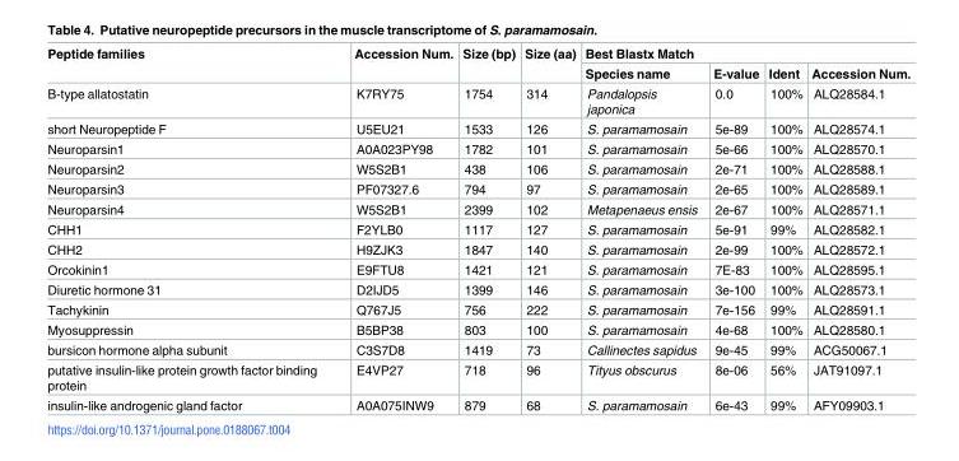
<table><thead><tr><td rowspan="2">Peptide families</td><td rowspan="2">Accession Num.</td><td rowspan="2">Size (bp)</td><td rowspan="2">Size (aa)</td><td colspan="4">Best Blastx Match</td></tr><tr><td>Species name</td><td>E-value</td><td>Ident</td><td>Accession Num.</td></tr></thead><tbody><tr><td>B-type allatostatin</td><td>K7RY75</td><td>1754</td><td>314</td><td>Pandalopsis japonica</td><td>0.0</td><td>100%</td><td>ALQ28584.1</td></tr><tr><td>short Neuropeptide F</td><td>U5EU21</td><td>1533</td><td>126</td><td>S. paramamosain</td><td>5e-89</td><td>100%</td><td>ALQ28574.1</td></tr><tr><td>Neuroparsin1</td><td>A0A023PY98</td><td>1782</td><td>101</td><td>S. paramamosain</td><td>5e-66</td><td>100%</td><td>ALQ28570.1</td></tr><tr><td>Neuroparsin2</td><td>W5S2B1</td><td>438</td><td>106</td><td>S. paramamosain</td><td>2e-71</td><td>100%</td><td>ALQ28588.1</td></tr><tr><td>Neuroparsin3</td><td>PF07327.6</td><td>794</td><td>97</td><td>S. paramamosain</td><td>2e-65</td><td>100%</td><td>ALQ28589.1</td></tr><tr><td>Neuroparsin4</td><td>W5S2B1</td><td>2399</td><td>102</td><td>Metapenaeus ensis</td><td>2e-67</td><td>100%</td><td>ALQ28571.1</td></tr><tr><td>CHH1</td><td>F2YLB0</td><td>1117</td><td>127</td><td>S. paramamosain</td><td>5e-91</td><td>99%</td><td>ALQ28582.1</td></tr><tr><td>CHH2</td><td>H9ZJK3</td><td>1847</td><td>140</td><td>S. paramamosain</td><td>2e-99</td><td>100%</td><td>ALQ28572.1</td></tr><tr><td>Orcokinin1</td><td>E9FTU8</td><td>1421</td><td>121</td><td>S. paramamosain</td><td>7E-83</td><td>100%</td><td>ALQ28595.1</td></tr><tr><td>Diuretic hormone 31</td><td>D2IJD5</td><td>1399</td><td>146</td><td>S. paramamosain</td><td>3e-100</td><td>100%</td><td>ALQ28573.1</td></tr><tr><td>Tachykinin</td><td>Q767J5</td><td>756</td><td>222</td><td>S. paramamosain</td><td>7e-156</td><td>99%</td><td>ALQ28591.1</td></tr><tr><td>Myosuppressin</td><td>B5BP38</td><td>803</td><td>100</td><td>S. paramamosain</td><td>4e-68</td><td>100%</td><td>ALQ28580.1</td></tr><tr><td>bursicon hormone alpha subunit</td><td>C3S7D8</td><td>1419</td><td>73</td><td>Callinectes sapidus</td><td>9e-45</td><td>99%</td><td>ACG50067.1</td></tr><tr><td>putative insulin-like protein growth factor binding protein</td><td>E4VP27</td><td>718</td><td>96</td><td>Tityus obscurus</td><td>8e-06</td><td>56%</td><td>JAT91097.1</td></tr><tr><td>insulin-like androgenic gland factor</td><td>A0A075INW9</td><td>879</td><td>68</td><td>S. paramamosain</td><td>6e-43</td><td>99%</td><td>AFY09903.1</td></tr></tbody></table>